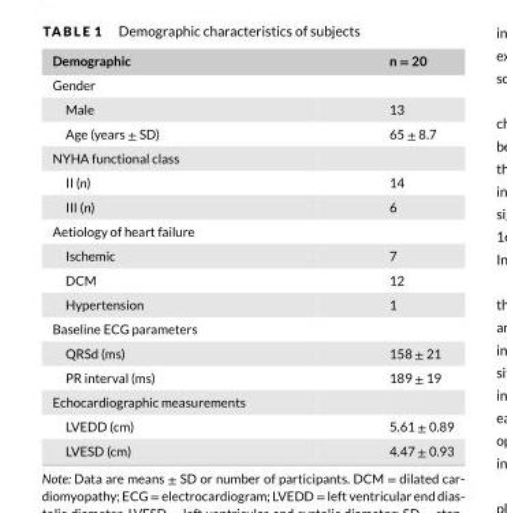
<table><thead><tr><td>Demographic</td><td>n = 20</td></tr></thead><tbody><tr><td colspan="2">Gender</td></tr><tr><td>Male</td><td>13</td></tr><tr><td>Age (years ± SD)</td><td>65 ± 8.7</td></tr><tr><td colspan="2">NYHA functional class</td></tr><tr><td>II (n)</td><td>14</td></tr><tr><td>III (n)</td><td>6</td></tr><tr><td colspan="2">Aetiology of heart failure</td></tr><tr><td>Ischemic</td><td>7</td></tr><tr><td>DCM</td><td>12</td></tr><tr><td>Hypertension</td><td>1</td></tr><tr><td colspan="2">Baseline ECG parameters</td></tr><tr><td>QRSd (ms)</td><td>158 ± 21</td></tr><tr><td>PR interval (ms)</td><td>189 ± 19</td></tr><tr><td colspan="2">Echocardiographic measurements</td></tr><tr><td>LVEDD (cm)</td><td>5.61 ± 0.89</td></tr><tr><td>LVESD (cm)</td><td>4.47 ± 0.93</td></tr></tbody></table>